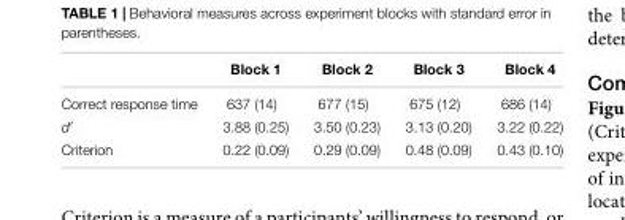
<table><thead><tr><td></td><td>Block 1</td><td>Block 2</td><td>Block 3</td><td>Block 4</td></tr></thead><tbody><tr><td>Correct response time</td><td>637 (14)</td><td>677 (15)</td><td>675 (12)</td><td>686 (14)</td></tr><tr><td>d′</td><td>3.88 (0.25)</td><td>3.50 (0.23)</td><td>3.13 (0.20)</td><td>3.22 (0.22)</td></tr><tr><td>Criterion</td><td>0.22 (0.09)</td><td>0.29 (0.09)</td><td>0.48 (0.09)</td><td>0.43 (0.10)</td></tr></tbody></table>